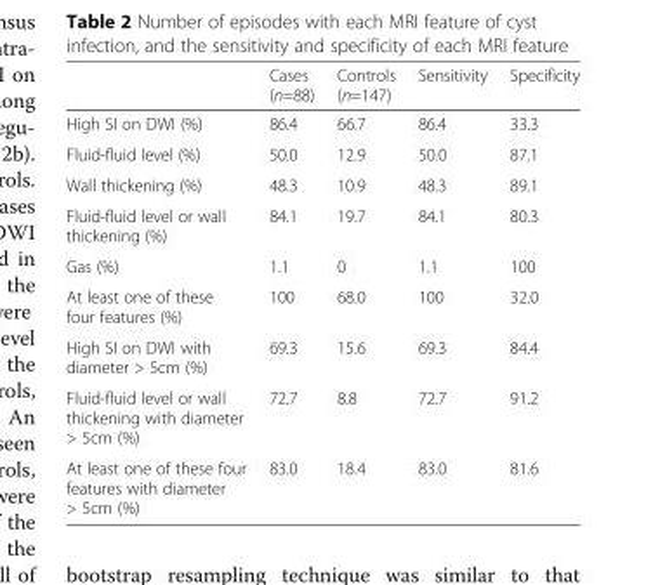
<table><thead><tr><td></td><td>Cases (n=88)</td><td>Controls (n=147)</td><td>Sensitivity</td><td>Specificity</td></tr></thead><tbody><tr><td>High SI on DWI (%)</td><td>86.4</td><td>66.7</td><td>86.4</td><td>33.3</td></tr><tr><td>Fluid-fluid level (%)</td><td>50.0</td><td>12.9</td><td>50.0</td><td>87.1</td></tr><tr><td>Wall thickening (%)</td><td>48.3</td><td>10.9</td><td>48.3</td><td>89.1</td></tr><tr><td>Fluid-fluid level or wall thickening (%)</td><td>84.1</td><td>19.7</td><td>84.1</td><td>80.3</td></tr><tr><td>Gas (%)</td><td>1.1</td><td>0</td><td>1.1</td><td>100</td></tr><tr><td>At least one of these four features (%)</td><td>100</td><td>68.0</td><td>100</td><td>32.0</td></tr><tr><td>High SI on DWI with diameter &gt; 5cm (%)</td><td>69.3</td><td>15.6</td><td>69.3</td><td>84.4</td></tr><tr><td>Fluid-fluid level or wall thickening with diameter &gt; 5cm (%)</td><td>72.7</td><td>8.8</td><td>72.7</td><td>91.2</td></tr><tr><td>At least one of these four features with diameter &gt; 5cm (%)</td><td>83.0</td><td>18.4</td><td>83.0</td><td>81.6</td></tr></tbody></table>